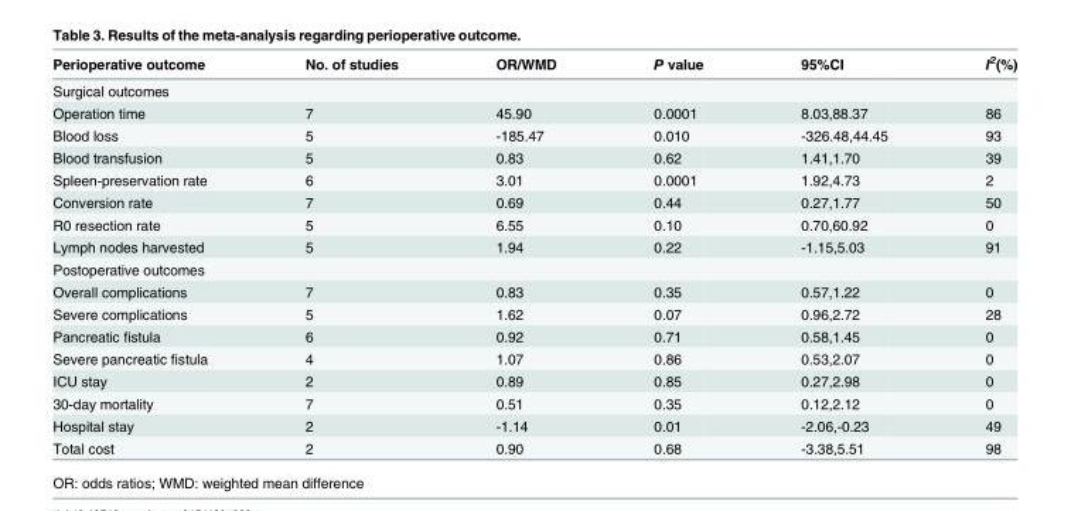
<table><thead><tr><td>Perioperative outcome</td><td>No. of studies</td><td>OR/WMD</td><td>P value</td><td>95%CI</td><td>I<sup>2</sup>(%)</td></tr></thead><tbody><tr><td colspan="6">Surgical outcomes</td></tr><tr><td>Operation time</td><td>7</td><td>45.90</td><td>0.0001</td><td>8.03,88.37</td><td>86</td></tr><tr><td>Blood loss</td><td>5</td><td>-185.47</td><td>0.010</td><td>-326.48,44.45</td><td>93</td></tr><tr><td>Blood transfusion</td><td>5</td><td>0.83</td><td>0.62</td><td>1.41,1.70</td><td>39</td></tr><tr><td>Spleen-preservation rate</td><td>6</td><td>3.01</td><td>0.0001</td><td>1.92,4.73</td><td>2</td></tr><tr><td>Conversion rate</td><td>7</td><td>0.69</td><td>0.44</td><td>0.27,1.77</td><td>50</td></tr><tr><td>R0 resection rate</td><td>5</td><td>6.55</td><td>0.10</td><td>0.70,60.92</td><td>0</td></tr><tr><td>Lymph nodes harvested</td><td>5</td><td>1.94</td><td>0.22</td><td>-1.15,5.03</td><td>91</td></tr><tr><td colspan="6">Postoperative outcomes</td></tr><tr><td>Overall complications</td><td>7</td><td>0.83</td><td>0.35</td><td>0.57,1.22</td><td>0</td></tr><tr><td>Severe complications</td><td>5</td><td>1.62</td><td>0.07</td><td>0.96,2.72</td><td>28</td></tr><tr><td>Pancreatic fistula</td><td>6</td><td>0.92</td><td>0.71</td><td>0.58,1.45</td><td>0</td></tr><tr><td>Severe pancreatic fistula</td><td>4</td><td>1.07</td><td>0.86</td><td>0.53,2.07</td><td>0</td></tr><tr><td>ICU stay</td><td>2</td><td>0.89</td><td>0.85</td><td>0.27,2.98</td><td>0</td></tr><tr><td>30-day mortality</td><td>7</td><td>0.51</td><td>0.35</td><td>0.12,2.12</td><td>0</td></tr><tr><td>Hospital stay</td><td>2</td><td>-1.14</td><td>0.01</td><td>-2.06,-0.23</td><td>49</td></tr><tr><td>Total cost</td><td>2</td><td>0.90</td><td>0.68</td><td>-3.38,5.51</td><td>98</td></tr></tbody></table>